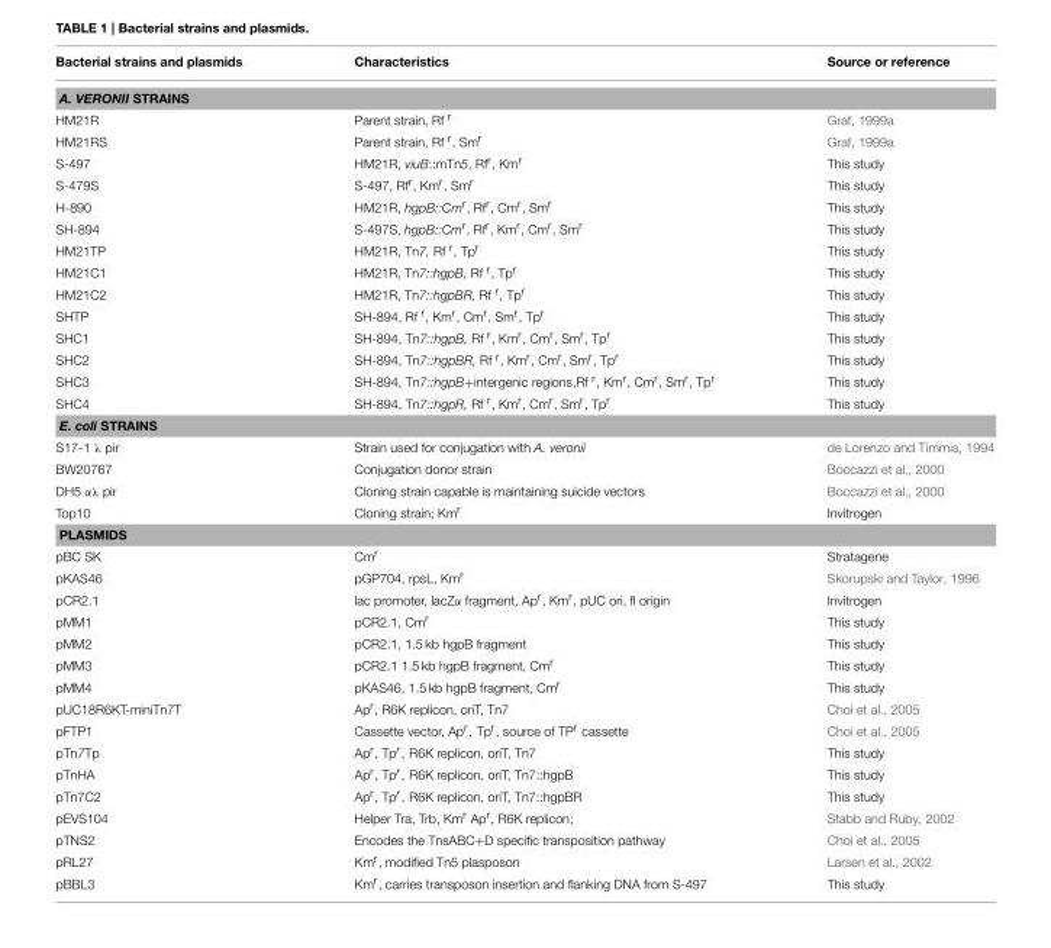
<table><thead><tr><td>Bacterial strains and plasmids</td><td>Characteristics</td><td>Source or reference</td></tr></thead><tbody><tr><td colspan="3">A. VERONII STRAINS</td></tr><tr><td>HM21R</td><td>Parent strain, Rf <sup>r</sup></td><td>Graf, 1999a</td></tr><tr><td>HM21RS</td><td>Parent strain, Rf <sup>r</sup>, Sm<sup>r</sup></td><td>Graf, 1999a</td></tr><tr><td>S-497</td><td>HM21R, viuB::mTn5, Rf<sup>r</sup>, Km<sup>r</sup></td><td>This study</td></tr><tr><td>S-479S</td><td>S-497, Rf<sup>r</sup>, Km<sup>r</sup>, Sm<sup>r</sup></td><td>This study</td></tr><tr><td>H-890</td><td>HM21R, hgpB::Cm<sup>r</sup>, Rf<sup>r</sup>, Cm<sup>r</sup>, Sm<sup>r</sup></td><td>This study</td></tr><tr><td>SH-894</td><td>S-497S, hgpB::Cm<sup>r</sup>, Rf<sup>r</sup>, Km<sup>r</sup>, Cm<sup>r</sup>, Sm<sup>r</sup></td><td>This study</td></tr><tr><td>HM21TP</td><td>HM21R, Tn7, Rf <sup>r</sup>, Tp<sup>r</sup></td><td>This study</td></tr><tr><td>HM21C1</td><td>HM21R, Tn7::hgpB, Rf <sup>r</sup>, Tp<sup>r</sup></td><td>This study</td></tr><tr><td>HM21C2</td><td>HM21R, Tn7::hgpBR, Rf <sup>r</sup>, Tp<sup>r</sup></td><td>This study</td></tr><tr><td>SHTP</td><td>SH-894, Rf <sup>r</sup>, Km<sup>r</sup>, Cm<sup>r</sup>, Sm<sup>r</sup>, Tp<sup>r</sup></td><td>This study</td></tr><tr><td>SHC1</td><td>SH-894, Tn7::hgpB, Rf <sup>r</sup>, Km<sup>r</sup>, Cm<sup>r</sup>, Sm<sup>r</sup>, Tp<sup>r</sup></td><td>This study</td></tr><tr><td>SHC2</td><td>SH-894, Tn7::hgpBR, Rf <sup>r</sup>, Km<sup>r</sup>, Cm<sup>r</sup>, Sm<sup>r</sup>, Tp<sup>r</sup></td><td>This study</td></tr><tr><td>SHC3</td><td>SH-894, Tn7::hgpB+intergenic regions,Rf <sup>r</sup>, Km<sup>r</sup>, Cm<sup>r</sup>, Sm<sup>r</sup>, Tp<sup>r</sup></td><td>This study</td></tr><tr><td>SHC4</td><td>SH-894, Tn7::hgpR, Rf <sup>r</sup>, Km<sup>r</sup>, Cm<sup>r</sup>, Sm<sup>r</sup>, Tp<sup>r</sup></td><td>This study</td></tr><tr><td colspan="3">E. coli STRAINS</td></tr><tr><td>S17-1 λ pir</td><td>Strain used for conjugation with A. veronii</td><td>de Lorenzo and Timmis, 1994</td></tr><tr><td>BW20767</td><td>Conjugation donor strain</td><td>Boccazzi et al., 2000</td></tr><tr><td>DH5 αλ pir</td><td>Cloning strain capable is maintaining suicide vectors</td><td>Boccazzi et al., 2000</td></tr><tr><td>Top10</td><td>Cloning strain; Km<sup>r</sup></td><td>Invitrogen</td></tr><tr><td colspan="3">PLASMIDS</td></tr><tr><td>pBC SK</td><td>Cm<sup>r</sup></td><td>Stratagene</td></tr><tr><td>pKAS46</td><td>pGP704, rpsL, Km<sup>r</sup></td><td>Skorupski and Taylor, 1996</td></tr><tr><td>pCR2.1</td><td>lac promoter, lacZα fragment, Ap<sup>r</sup>, Km<sup>r</sup>, pUC ori, fl origin</td><td>Invitrogen</td></tr><tr><td>pMM1</td><td>pCR2.1, Cm<sup>r</sup></td><td>This study</td></tr><tr><td>pMM2</td><td>pCR2.1, 1.5 kb hgpB fragment</td><td>This study</td></tr><tr><td>pMM3</td><td>pCR2.1 1.5 kb hgpB fragment, Cm<sup>r</sup></td><td>This study</td></tr><tr><td>pMM4</td><td>pKAS46, 1.5 kb hgpB fragment, Cm<sup>r</sup></td><td>This study</td></tr><tr><td>pUC18R6KT-miniTn7T</td><td>Ap<sup>r</sup>, R6K replicon, oriT, Tn7</td><td>Choi et al., 2005</td></tr><tr><td>pFTP1</td><td>Cassette vector, Ap<sup>r</sup>, Tp<sup>r</sup>, source of TP<sup>r</sup> cassette</td><td>Choi et al., 2005</td></tr><tr><td>pTn7Tp</td><td>Ap<sup>r</sup>, Tp<sup>r</sup>, R6K replicon, oriT, Tn7</td><td>This study</td></tr><tr><td>pTnHA</td><td>Ap<sup>r</sup>, Tp<sup>r</sup>, R6K replicon, oriT, Tn7::hgpB</td><td>This study</td></tr><tr><td>pTn7C2</td><td>Ap<sup>r</sup>, Tp<sup>r</sup>, R6K replicon, oriT, Tn7::hgpBR</td><td>This study</td></tr><tr><td>pEVS104</td><td>Helper Tra, Trb, Km<sup>r</sup> Ap<sup>r</sup>, R6K replicon;</td><td>Stabb and Ruby, 2002</td></tr><tr><td>pTNS2</td><td>Encodes the TnsABC+D specific transposition pathway</td><td>Choi et al., 2005</td></tr><tr><td>pRL27</td><td>Km<sup>r</sup>, modified Tn5 plasposon</td><td>Larsen et al., 2002</td></tr><tr><td>pBBL3</td><td>Km<sup>r</sup>, carries transposon insertion and flanking DNA from S-497</td><td>This study</td></tr></tbody></table>